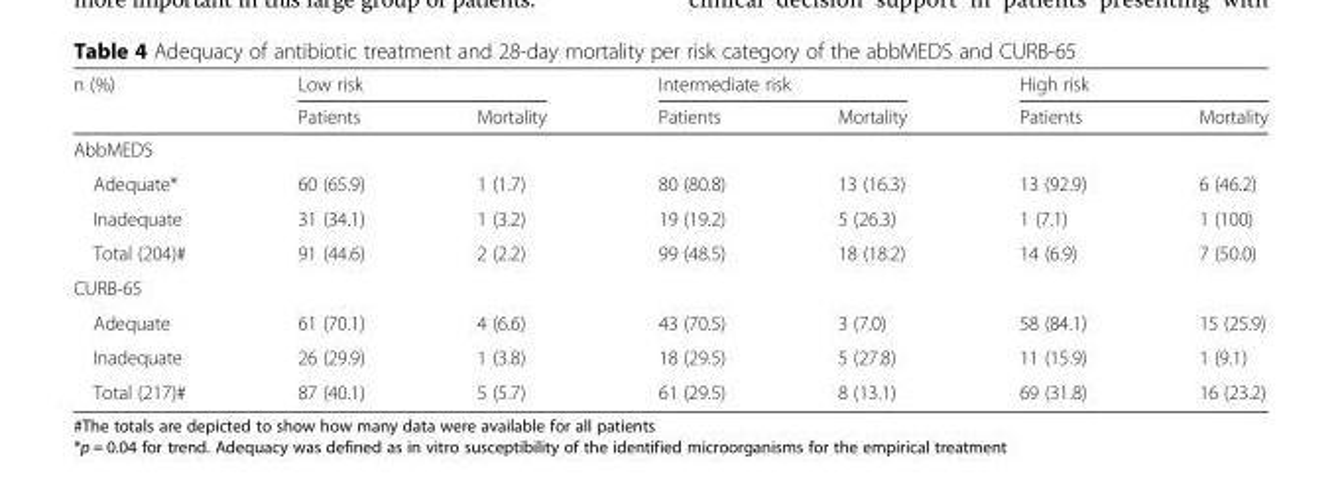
<table><thead><tr><td rowspan="2">n (%)</td><td colspan="2">Low risk</td><td colspan="2">Intermediate risk</td><td colspan="2">High risk</td></tr><tr><td>Patients</td><td>Mortality</td><td>Patients</td><td>Mortality</td><td>Patients</td><td>Mortality</td></tr></thead><tbody><tr><td colspan="7">AbbMEDS</td></tr><tr><td>Adequate*</td><td>60 (65.9)</td><td>1 (1.7)</td><td>80 (80.8)</td><td>13 (16.3)</td><td>13 (92.9)</td><td>6 (46.2)</td></tr><tr><td>Inadequate</td><td>31 (34.1)</td><td>1 (3.2)</td><td>19 (19.2)</td><td>5 (26.3)</td><td>1 (7.1)</td><td>1 (100)</td></tr><tr><td>Total (204)#</td><td>91 (44.6)</td><td>2 (2.2)</td><td>99 (48.5)</td><td>18 (18.2)</td><td>14 (6.9)</td><td>7 (50.0)</td></tr><tr><td colspan="7">CURB-65</td></tr><tr><td>Adequate</td><td>61 (70.1)</td><td>4 (6.6)</td><td>43 (70.5)</td><td>3 (7.0)</td><td>58 (84.1)</td><td>15 (25.9)</td></tr><tr><td>Inadequate</td><td>26 (29.9)</td><td>1 (3.8)</td><td>18 (29.5)</td><td>5 (27.8)</td><td>11 (15.9)</td><td>1 (9.1)</td></tr><tr><td>Total (217)#</td><td>87 (40.1)</td><td>5 (5.7)</td><td>61 (29.5)</td><td>8 (13.1)</td><td>69 (31.8)</td><td>16 (23.2)</td></tr></tbody></table>